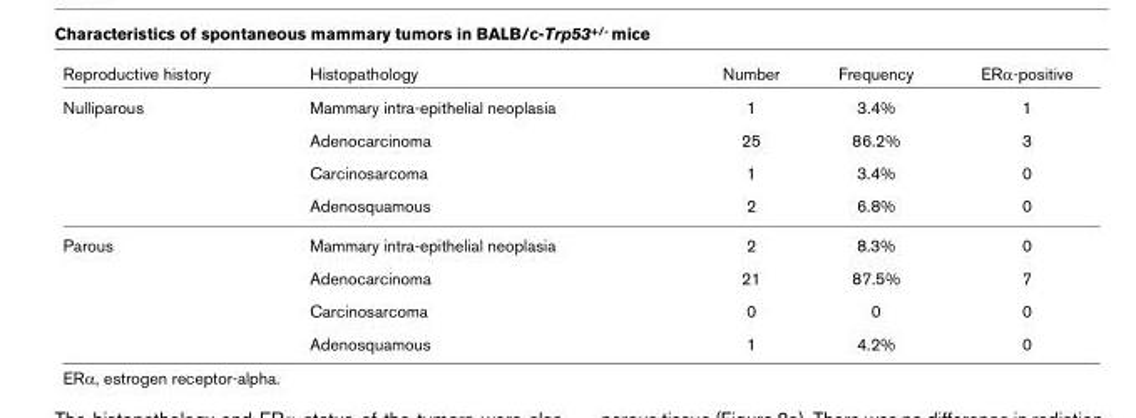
<table><thead><tr><td>Reproductive history</td><td>Histopathology</td><td>Number</td><td>Frequency</td><td>ERα-positive</td></tr></thead><tbody><tr><td rowspan="4">Nulliparous</td><td>Mammary intra-epithelial neoplasia</td><td>1</td><td>3.4%</td><td>1</td></tr><tr><td>Adenocarcinoma</td><td>25</td><td>86.2%</td><td>3</td></tr><tr><td>Carcinosarcoma</td><td>1</td><td>3.4%</td><td>0</td></tr><tr><td>Adenosquamous</td><td>2</td><td>6.8%</td><td>0</td></tr><tr><td rowspan="4">Parous</td><td>Mammary intra-epithelial neoplasia</td><td>2</td><td>8.3%</td><td>0</td></tr><tr><td>Adenocarcinoma</td><td>21</td><td>87.5%</td><td>7</td></tr><tr><td>Carcinosarcoma</td><td>0</td><td>0</td><td>0</td></tr><tr><td>Adenosquamous</td><td>1</td><td>4.2%</td><td>0</td></tr></tbody></table>